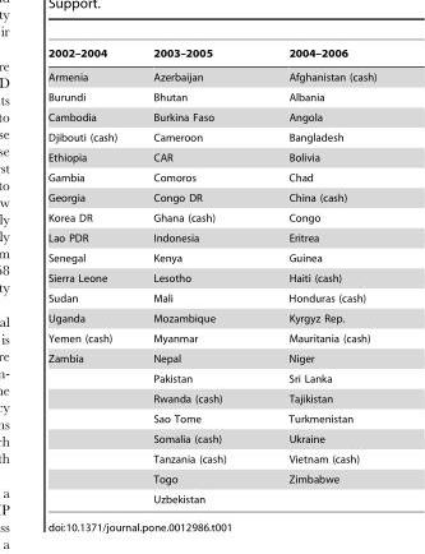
<table><thead><tr><td>2002–2004</td><td>2003–2005</td><td>2004–2006</td></tr></thead><tbody><tr><td>Armenia</td><td>Azerbaijan</td><td>Afghanistan (cash)</td></tr><tr><td>Burundi</td><td>Bhutan</td><td>Albania</td></tr><tr><td>Cambodia</td><td>Burkina Faso</td><td>Angola</td></tr><tr><td>Djibouti (cash)</td><td>Cameroon</td><td>Bangladesh</td></tr><tr><td>Ethiopia</td><td>CAR</td><td>Bolivia</td></tr><tr><td>Gambia</td><td>Comoros</td><td>Chad</td></tr><tr><td>Georgia</td><td>Congo DR</td><td>China (cash)</td></tr><tr><td>Korea DR</td><td>Ghana (cash)</td><td>Congo</td></tr><tr><td>Lao PDR</td><td>Indonesia</td><td>Eritrea</td></tr><tr><td>Senegal</td><td>Kenya</td><td>Guinea</td></tr><tr><td>Sierra Leone</td><td>Lesotho</td><td>Haiti (cash)</td></tr><tr><td>Sudan</td><td>Mali</td><td>Honduras (cash)</td></tr><tr><td>Uganda</td><td>Mozambique</td><td>Kyrgyz Rep.</td></tr><tr><td>Yemen (cash)</td><td>Myanmar</td><td>Mauritania (cash)</td></tr><tr><td rowspan="8">Zambia</td><td>Nepal</td><td>Niger</td></tr><tr><td>Pakistan</td><td>Sri Lanka</td></tr><tr><td>Rwanda (cash)</td><td>Tajikistan</td></tr><tr><td>Sao Tome</td><td>Turkmenistan</td></tr><tr><td>Somalia (cash)</td><td>Ukraine</td></tr><tr><td>Tanzania (cash)</td><td>Vietnam (cash)</td></tr><tr><td>Togo</td><td>Zimbabwe</td></tr><tr><td>Uzbekistan</td><td></td></tr></tbody></table>